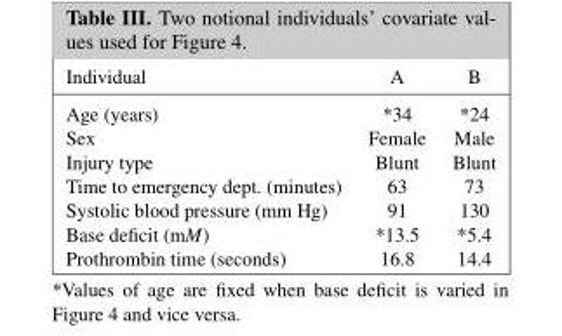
<table><thead><tr><td>Individual</td><td>A</td><td>B</td></tr></thead><tbody><tr><td>Age (years)</td><td>*34</td><td>*24</td></tr><tr><td>Sex</td><td>Female</td><td>Male</td></tr><tr><td>Injury type</td><td>Blunt</td><td>Blunt</td></tr><tr><td>Time to emergency dept. (minutes)</td><td>63</td><td>73</td></tr><tr><td>Systolic blood pressure (mm Hg)</td><td>91</td><td>130</td></tr><tr><td>Base deficit (mM)</td><td>*13.5</td><td>*5.4</td></tr><tr><td>Prothrombin time (seconds)</td><td>16.8</td><td>14.4</td></tr></tbody></table>